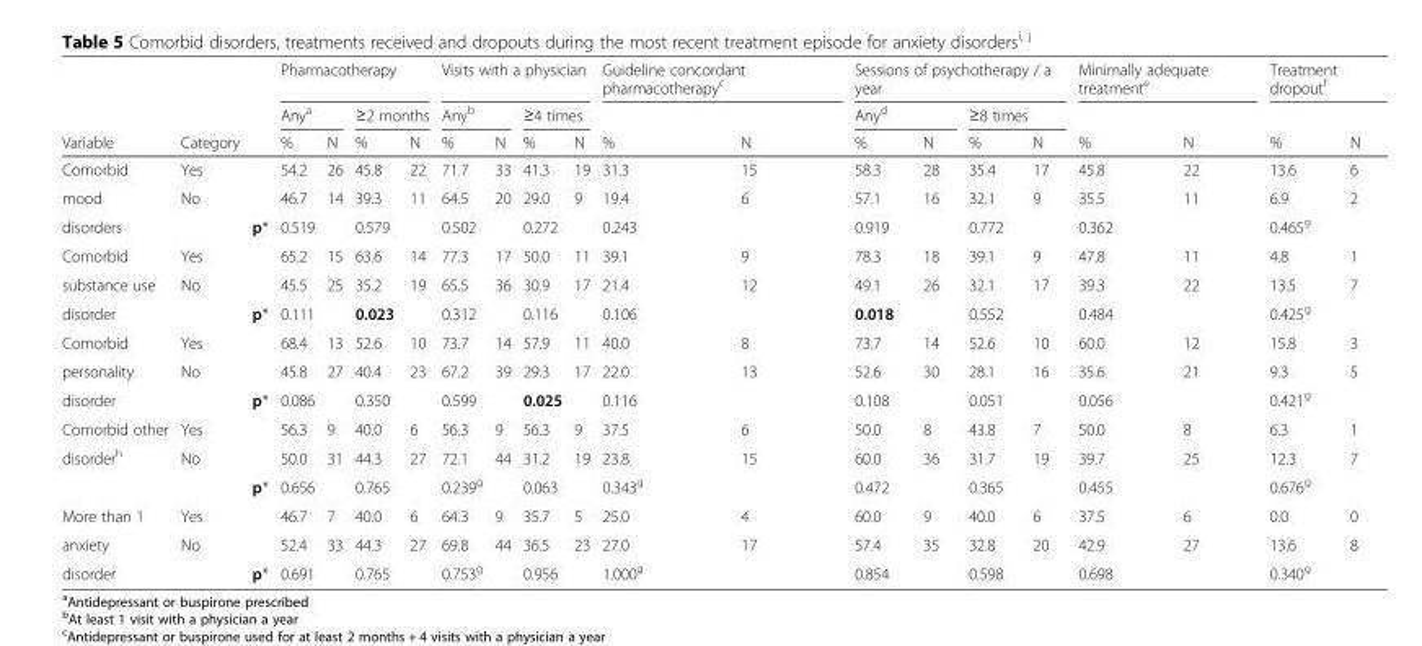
<table><thead><tr><td rowspan="3">Variable</td><td rowspan="3">Category</td><td rowspan="3"></td><td colspan="4">Pharmacotherapy</td><td colspan="4">Visits with a physician</td><td colspan="2">Guideline concordant pharmacotherapy<sup>c</sup></td><td colspan="4">Sessions of psychotherapy / a year</td><td colspan="2">Minimally adequate treatment<sup>e</sup></td><td colspan="2">Treatment dropout<sup>f</sup></td></tr><tr><td colspan="2">Any<sup>a</sup></td><td colspan="2">≥2 months</td><td colspan="2">Any<sup>b</sup></td><td colspan="2">≥4 times</td><td rowspan="2">%</td><td rowspan="2">N</td><td colspan="2">Any<sup>d</sup></td><td colspan="2">≥8 times</td><td rowspan="2">%</td><td rowspan="2">N</td><td rowspan="2">%</td><td rowspan="2">N</td></tr><tr><td>%</td><td>N</td><td>%</td><td>N</td><td>%</td><td>N</td><td>%</td><td>N</td><td>%</td><td>N</td><td>%</td><td>N</td></tr></thead><tbody><tr><td>Comorbid</td><td>Yes</td><td></td><td>54.2</td><td>26</td><td>45.8</td><td>22</td><td>71.7</td><td>33</td><td>41.3</td><td>19</td><td>31.3</td><td>15</td><td>58.3</td><td>28</td><td>35.4</td><td>17</td><td>45.8</td><td>22</td><td>13.6</td><td>6</td></tr><tr><td>mood</td><td>No</td><td></td><td>46.7</td><td>14</td><td>39.3</td><td>11</td><td>64.5</td><td>20</td><td>29.0</td><td>9</td><td>19.4</td><td>6</td><td>57.1</td><td>16</td><td>32.1</td><td>9</td><td>35.5</td><td>11</td><td>6.9</td><td>2</td></tr><tr><td>disorders</td><td></td><td>p*</td><td>0.519</td><td></td><td>0.579</td><td></td><td>0.502</td><td></td><td>0.272</td><td></td><td>0.243</td><td></td><td>0.919</td><td></td><td>0.772</td><td></td><td>0.362</td><td></td><td>0.465<sup>g</sup></td><td></td></tr><tr><td>Comorbid</td><td>Yes</td><td></td><td>65.2</td><td>15</td><td>63.6</td><td>14</td><td>77.3</td><td>17</td><td>50.0</td><td>11</td><td>39.1</td><td>9</td><td>78.3</td><td>18</td><td>39.1</td><td>9</td><td>47.8</td><td>11</td><td>4.8</td><td>1</td></tr><tr><td>substance use</td><td>No</td><td></td><td>45.5</td><td>25</td><td>35.2</td><td>19</td><td>65.5</td><td>36</td><td>30.9</td><td>17</td><td>21.4</td><td>12</td><td>49.1</td><td>26</td><td>32.1</td><td>17</td><td>39.3</td><td>22</td><td>13.5</td><td>7</td></tr><tr><td>disorder</td><td></td><td>p*</td><td>0.111</td><td></td><td>0.023</td><td></td><td>0.312</td><td></td><td>0.116</td><td></td><td>0.106</td><td></td><td>0.018</td><td></td><td>0.552</td><td></td><td>0.484</td><td></td><td>0.425<sup>g</sup></td><td></td></tr><tr><td>Comorbid</td><td>Yes</td><td></td><td>68.4</td><td>13</td><td>52.6</td><td>10</td><td>73.7</td><td>14</td><td>57.9</td><td>11</td><td>40.0</td><td>8</td><td>73.7</td><td>14</td><td>52.6</td><td>10</td><td>60.0</td><td>12</td><td>15.8</td><td>3</td></tr><tr><td>personality</td><td>No</td><td></td><td>45.8</td><td>27</td><td>40.4</td><td>23</td><td>67.2</td><td>39</td><td>29.3</td><td>17</td><td>22.0</td><td>13</td><td>52.6</td><td>30</td><td>28.1</td><td>16</td><td>35.6</td><td>21</td><td>9.3</td><td>5</td></tr><tr><td>disorder</td><td></td><td>p*</td><td>0.086</td><td></td><td>0.350</td><td></td><td>0.599</td><td></td><td>0.025</td><td></td><td>0.116</td><td></td><td>0.108</td><td></td><td>0.051</td><td></td><td>0.056</td><td></td><td>0.421<sup>g</sup></td><td></td></tr><tr><td>Comorbid other</td><td>Yes</td><td></td><td>56.3</td><td>9</td><td>40.0</td><td>6</td><td>56.3</td><td>9</td><td>56.3</td><td>9</td><td>37.5</td><td>6</td><td>50.0</td><td>8</td><td>43.8</td><td>7</td><td>50.0</td><td>8</td><td>6.3</td><td>1</td></tr><tr><td rowspan="2">disorder<sup>h</sup></td><td>No</td><td></td><td>50.0</td><td>31</td><td>44.3</td><td>27</td><td>72.1</td><td>44</td><td>31.2</td><td>19</td><td>23.8</td><td>15</td><td>60.0</td><td>36</td><td>31.7</td><td>19</td><td>39.7</td><td>25</td><td>12.3</td><td>7</td></tr><tr><td></td><td>p*</td><td>0.656</td><td></td><td>0.765</td><td></td><td>0.239<sup>g</sup></td><td></td><td>0.063</td><td></td><td>0.343<sup>g</sup></td><td></td><td>0.472</td><td></td><td>0.365</td><td></td><td>0.455</td><td></td><td>0.676<sup>g</sup></td><td></td></tr><tr><td>More than 1</td><td>Yes</td><td></td><td>46.7</td><td>7</td><td>40.0</td><td>6</td><td>64.3</td><td>9</td><td>35.7</td><td>5</td><td>25.0</td><td>4</td><td>60.0</td><td>9</td><td>40.0</td><td>6</td><td>37.5</td><td>6</td><td>0.0</td><td>0</td></tr><tr><td>anxiety</td><td>No</td><td></td><td>52.4</td><td>33</td><td>44.3</td><td>27</td><td>69.8</td><td>44</td><td>36.5</td><td>23</td><td>27.0</td><td>17</td><td>57.4</td><td>35</td><td>32.8</td><td>20</td><td>42.9</td><td>27</td><td>13.6</td><td>8</td></tr><tr><td>disorder</td><td></td><td>p*</td><td>0.691</td><td></td><td>0.765</td><td></td><td>0.753<sup>g</sup></td><td></td><td>0.956</td><td></td><td>1.000<sup>g</sup></td><td></td><td>0.854</td><td></td><td>0.598</td><td></td><td>0.698</td><td></td><td>0.340<sup>g</sup></td><td></td></tr></tbody></table>